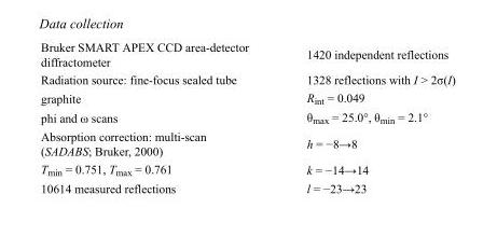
<table><tbody><tr><td>Bruker SMART APEX CCD area-detector diffractometer</td><td>1420 independent reflections</td></tr><tr><td>Radiation source: fine-focus sealed tube</td><td>1328 reflections with I &gt; 2σ(I)</td></tr><tr><td>graphite</td><td>R<sub>int</sub> = 0.049</td></tr><tr><td>phi and ω scans</td><td>θ<sub>max</sub> = 25.0°, θ<sub>min</sub> = 2.1°</td></tr><tr><td>Absorption correction: multi-scan (SADABS; Bruker, 2000)</td><td>h = −8→8</td></tr><tr><td>T<sub>min</sub> = 0.751, T<sub>max</sub> = 0.761</td><td>k = −14→14</td></tr><tr><td>10614 measured reflections</td><td>l = −23→23</td></tr></tbody></table>